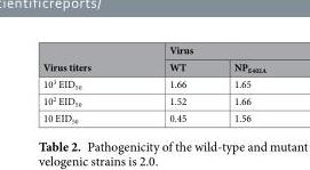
<table><thead><tr><td rowspan="2">Virus titers</td><td colspan="2">Virus</td></tr><tr><td>WT</td><td>NP<sub>E402A</sub></td></tr></thead><tbody><tr><td>10<sup>3</sup> EID<sub>50</sub></td><td>1.66</td><td>1.65</td></tr><tr><td>10<sup>2</sup> EID<sub>50</sub></td><td>1.52</td><td>1.66</td></tr><tr><td>10 EID<sub>50</sub></td><td>0.45</td><td>1.56</td></tr></tbody></table>